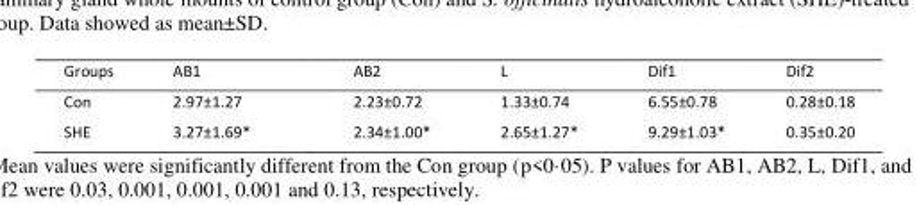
<table><thead><tr><td>Groups</td><td>AB1</td><td>AB2</td><td>L</td><td>Dif1</td><td>Dif2</td></tr></thead><tbody><tr><td>Con</td><td>2.97±1.27</td><td>2.23±0.72</td><td>1.33±0.74</td><td>6.55±0.78</td><td>0.28±0.18</td></tr><tr><td>SHE</td><td>3.27±1.69*</td><td>2.34±1.00*</td><td>2.65±1.27*</td><td>9.29±1.03*</td><td>0.35±0.20</td></tr></tbody></table>